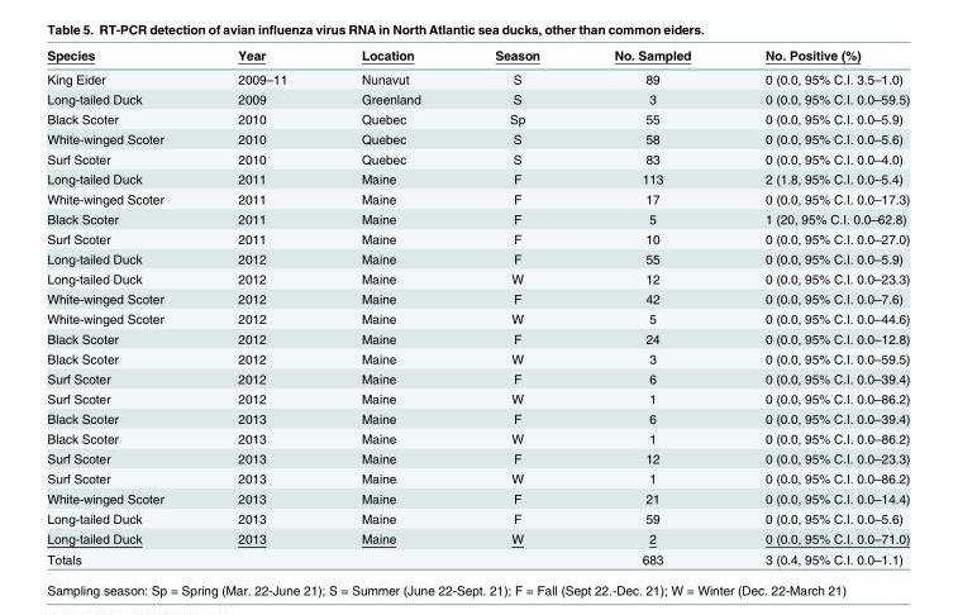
<table><thead><tr><td>Species</td><td>Year</td><td>Location</td><td>Season</td><td>No. Sampled</td><td>No. Positive (%)</td></tr></thead><tbody><tr><td>King Eider</td><td>2009–11</td><td>Nunavut</td><td>S</td><td>89</td><td>0 (0.0, 95% C.I. 3.5–1.0)</td></tr><tr><td>Long-tailed Duck</td><td>2009</td><td>Greenland</td><td>S</td><td>3</td><td>0 (0.0, 95% C.I. 0.0–59.5)</td></tr><tr><td>Black Scoter</td><td>2010</td><td>Quebec</td><td>Sp</td><td>55</td><td>0 (0.0, 95% C.I. 0.0–5.9)</td></tr><tr><td>White-winged Scoter</td><td>2010</td><td>Quebec</td><td>S</td><td>58</td><td>0 (0.0, 95% C.I. 0.0–5.6)</td></tr><tr><td>Surf Scoter</td><td>2010</td><td>Quebec</td><td>S</td><td>83</td><td>0 (0.0, 95% C.I. 0.0–4.0)</td></tr><tr><td>Long-tailed Duck</td><td>2011</td><td>Maine</td><td>F</td><td>113</td><td>2 (1.8, 95% C.I. 0.0–5.4)</td></tr><tr><td>White-winged Scoter</td><td>2011</td><td>Maine</td><td>F</td><td>17</td><td>0 (0.0, 95% C.I. 0.0–17.3)</td></tr><tr><td>Black Scoter</td><td>2011</td><td>Maine</td><td>F</td><td>5</td><td>1 (20, 95% C.I. 0.0–62.8)</td></tr><tr><td>Surf Scoter</td><td>2011</td><td>Maine</td><td>F</td><td>10</td><td>0 (0.0, 95% C.I. 0.0–27.0)</td></tr><tr><td>Long-tailed Duck</td><td>2012</td><td>Maine</td><td>F</td><td>55</td><td>0 (0.0, 95% C.I. 0.0–5.9)</td></tr><tr><td>Long-tailed Duck</td><td>2012</td><td>Maine</td><td>W</td><td>12</td><td>0 (0.0, 95% C.I. 0.0–23.3)</td></tr><tr><td>White-winged Scoter</td><td>2012</td><td>Maine</td><td>F</td><td>42</td><td>0 (0.0, 95% C.I. 0.0–7.6)</td></tr><tr><td>White-winged Scoter</td><td>2012</td><td>Maine</td><td>W</td><td>5</td><td>0 (0.0, 95% C.I. 0.0–44.6)</td></tr><tr><td>Black Scoter</td><td>2012</td><td>Maine</td><td>F</td><td>24</td><td>0 (0.0, 95% C.I. 0.0–12.8)</td></tr><tr><td>Black Scoter</td><td>2012</td><td>Maine</td><td>W</td><td>3</td><td>0 (0.0, 95% C.I. 0.0–59.5)</td></tr><tr><td>Surf Scoter</td><td>2012</td><td>Maine</td><td>F</td><td>6</td><td>0 (0.0, 95% C.I. 0.0–39.4)</td></tr><tr><td>Surf Scoter</td><td>2012</td><td>Maine</td><td>W</td><td>1</td><td>0 (0.0, 95% C.I. 0.0–86.2)</td></tr><tr><td>Black Scoter</td><td>2013</td><td>Maine</td><td>F</td><td>6</td><td>0 (0.0, 95% C.I. 0.0–39.4)</td></tr><tr><td>Black Scoter</td><td>2013</td><td>Maine</td><td>W</td><td>1</td><td>0 (0.0, 95% C.I. 0.0–86.2)</td></tr><tr><td>Surf Scoter</td><td>2013</td><td>Maine</td><td>F</td><td>12</td><td>0 (0.0, 95% C.I. 0.0–23.3)</td></tr><tr><td>Surf Scoter</td><td>2013</td><td>Maine</td><td>W</td><td>1</td><td>0 (0.0, 95% C.I. 0.0–86.2)</td></tr><tr><td>White-winged Scoter</td><td>2013</td><td>Maine</td><td>F</td><td>21</td><td>0 (0.0, 95% C.I. 0.0–14.4)</td></tr><tr><td>Long-tailed Duck</td><td>2013</td><td>Maine</td><td>F</td><td>59</td><td>0 (0.0, 95% C.I. 0.0–5.6)</td></tr><tr><td>Long-tailed Duck</td><td>2013</td><td>Maine</td><td>W</td><td>2</td><td>0 (0.0, 95% C.I. 0.0–71.0)</td></tr><tr><td>Totals</td><td></td><td></td><td></td><td>683</td><td>3 (0.4, 95% C.I. 0.0–1.1)</td></tr></tbody></table>